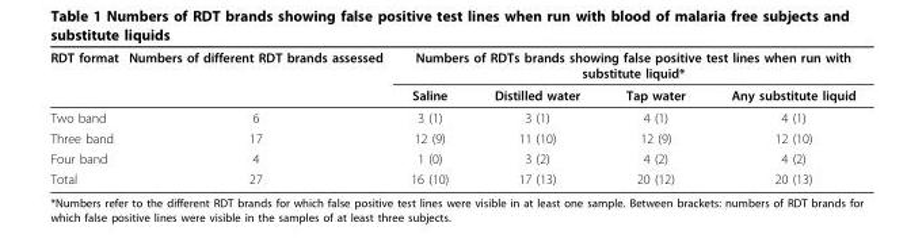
<table><thead><tr><td rowspan="2">RDT format</td><td rowspan="2">Numbers of different RDT brands assessed</td><td colspan="4">Numbers of RDTs brands showing false positive test lines when run with substitute liquid*</td></tr><tr><td>Saline</td><td>Distilled water</td><td>Tap water</td><td>Any substitute liquid</td></tr></thead><tbody><tr><td>Two band</td><td>6</td><td>3 (1)</td><td>3 (1)</td><td>4 (1)</td><td>4 (1)</td></tr><tr><td>Three band</td><td>17</td><td>12 (9)</td><td>11 (10)</td><td>12 (9)</td><td>12 (10)</td></tr><tr><td>Four band</td><td>4</td><td>1 (0)</td><td>3 (2)</td><td>4 (2)</td><td>4 (2)</td></tr><tr><td>Total</td><td>27</td><td>16 (10)</td><td>17 (13)</td><td>20 (12)</td><td>20 (13)</td></tr></tbody></table>